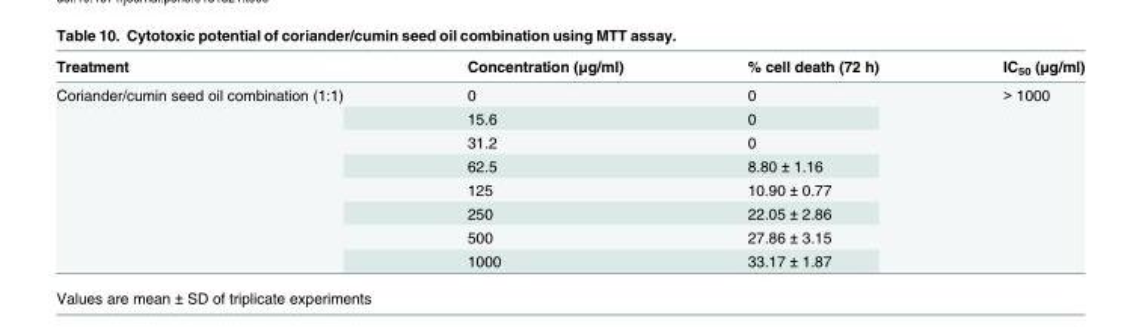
<table><thead><tr><td>Treatment</td><td>Concentration (μg/ml)</td><td>% cell death (72 h)</td><td>IC<sub>50</sub> (μg/ml)</td></tr></thead><tbody><tr><td rowspan="8">Coriander/cumin seed oil combination (1:1)</td><td>0</td><td>0</td><td rowspan="8">&gt; 1000</td></tr><tr><td>15.6</td><td>0</td></tr><tr><td>31.2</td><td>0</td></tr><tr><td>62.5</td><td>8.80 ± 1.16</td></tr><tr><td>125</td><td>10.90 ± 0.77</td></tr><tr><td>250</td><td>22.05 ± 2.86</td></tr><tr><td>500</td><td>27.86 ± 3.15</td></tr><tr><td>1000</td><td>33.17 ± 1.87</td></tr></tbody></table>